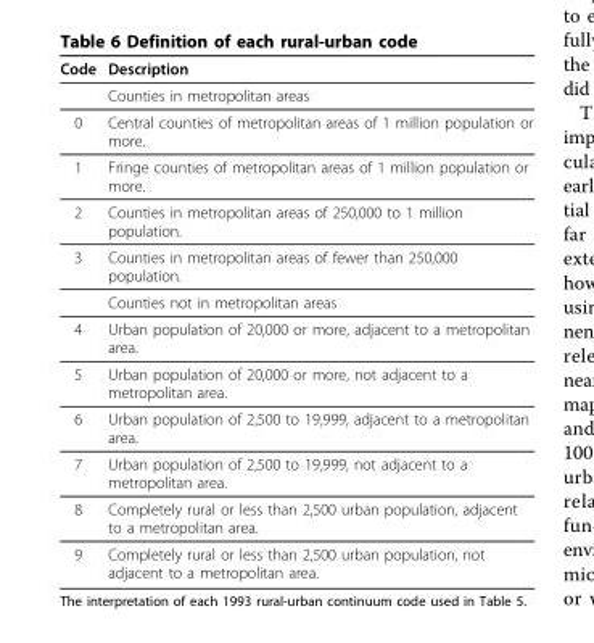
<table><thead><tr><td>Code</td><td>Description</td></tr></thead><tbody><tr><td></td><td>Counties in metropolitan areas</td></tr><tr><td>0</td><td>Central counties of metropolitan areas of 1 million population or more.</td></tr><tr><td>1</td><td>Fringe counties of metropolitan areas of 1 million population or more.</td></tr><tr><td>2</td><td>Counties in metropolitan areas of 250,000 to 1 million population.</td></tr><tr><td rowspan="2">3</td><td>Counties in metropolitan areas of fewer than 250,000 population.</td></tr><tr><td>Counties not in metropolitan areas</td></tr><tr><td>4</td><td>Urban population of 20,000 or more, adjacent to a metropolitan area.</td></tr><tr><td>5</td><td>Urban population of 20,000 or more, not adjacent to a metropolitan area.</td></tr><tr><td>6</td><td>Urban population of 2,500 to 19,999, adjacent to a metropolitan area.</td></tr><tr><td>7</td><td>Urban population of 2,500 to 19,999, not adjacent to a metropolitan area.</td></tr><tr><td>8</td><td>Completely rural or less than 2,500 urban population, adjacent to a metropolitan area.</td></tr><tr><td>9</td><td>Completely rural or less than 2,500 urban population, not adjacent to a metropolitan area.</td></tr></tbody></table>